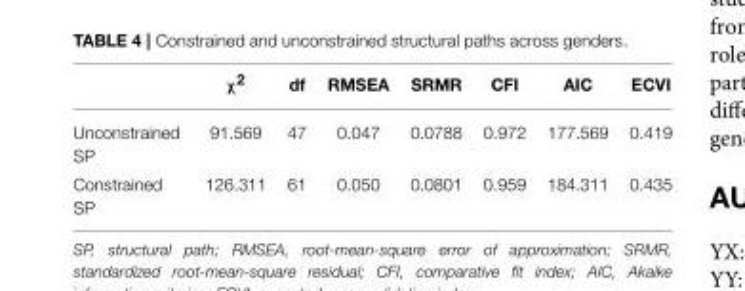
<table><thead><tr><td></td><td>χ<sup>2</sup></td><td>df</td><td>RMSEA</td><td>SRMR</td><td>CFI</td><td>AIC</td><td>ECVI</td></tr></thead><tbody><tr><td>Unconstrained SP</td><td>91.569</td><td>47</td><td>0.047</td><td>0.0788</td><td>0.972</td><td>177.569</td><td>0.419</td></tr><tr><td>Constrained SP</td><td>126.311</td><td>61</td><td>0.050</td><td>0.0801</td><td>0.959</td><td>184.311</td><td>0.435</td></tr></tbody></table>